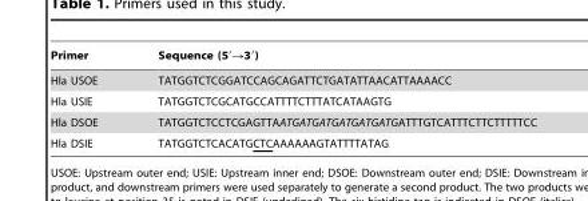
<table><thead><tr><td>Primer</td><td>Sequence (5′→3′)</td></tr></thead><tbody><tr><td>Hla USOE</td><td>TATGGTCTCGGATCCAGCAGATTCTGATATTAACATTAAAACC</td></tr><tr><td>Hla USIE</td><td>TATGGTCTCGCATGCCATTTTCTTTATCATAAGTG</td></tr><tr><td>Hla DSOE</td><td>TATGGTCTCCTCGAGTTAATGATGATGATGATGATGATTTGTCATTTCTTCTTTTTCC</td></tr><tr><td>Hla DSIE</td><td>TATGGTCTCACATGCTCAAAAAAGTATTTTATAG</td></tr></tbody></table>